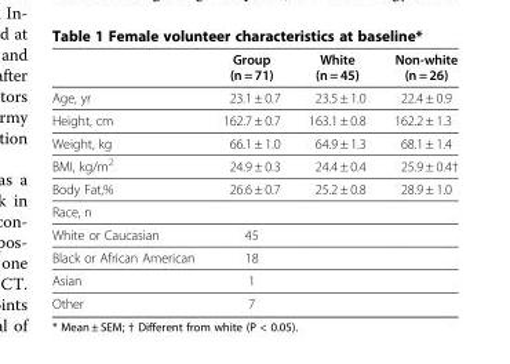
<table><thead><tr><td></td><td>Group (n = 71)</td><td>White (n = 45)</td><td>Non-white (n = 26)</td></tr></thead><tbody><tr><td>Age, yr</td><td>23.1 ± 0.7</td><td>23.5 ± 1.0</td><td>22.4 ± 0.9</td></tr><tr><td>Height, cm</td><td>162.7 ± 0.7</td><td>163.1 ± 0.8</td><td>162.2 ± 1.3</td></tr><tr><td>Weight, kg</td><td>66.1 ± 1.0</td><td>64.9 ± 1.3</td><td>68.1 ± 1.4</td></tr><tr><td>BMI, kg/m<sup>2</sup></td><td>24.9 ± 0.3</td><td>24.4 ± 0.4</td><td>25.9 ± 0.4†</td></tr><tr><td>Body Fat,%</td><td>26.6 ± 0.7</td><td>25.2 ± 0.8</td><td>28.9 ± 1.0</td></tr><tr><td colspan="4">Race, n</td></tr><tr><td>White or Caucasian</td><td>45</td><td></td><td></td></tr><tr><td>Black or African American</td><td>18</td><td></td><td></td></tr><tr><td>Asian</td><td>1</td><td></td><td></td></tr><tr><td>Other</td><td>7</td><td></td><td></td></tr></tbody></table>